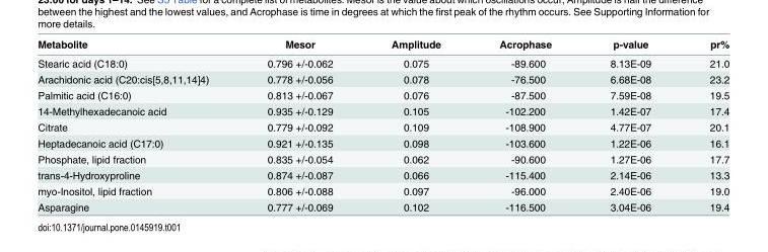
<table><thead><tr><td>Metabolite</td><td>Mesor</td><td>Amplitude</td><td>Acrophase</td><td>p-value</td><td>pr%</td></tr></thead><tbody><tr><td>Stearic acid (C18:0)</td><td>0.796 +/-0.062</td><td>0.075</td><td>-89.600</td><td>8.13E-09</td><td>21.0</td></tr><tr><td>Arachidonic acid (C20:cis[5,8,11,14]4)</td><td>0.778 +/-0.056</td><td>0.078</td><td>-76.500</td><td>6.68E-08</td><td>23.2</td></tr><tr><td>Palmitic acid (C16:0)</td><td>0.813 +/-0.067</td><td>0.076</td><td>-87.500</td><td>7.59E-08</td><td>19.5</td></tr><tr><td>14-Methylhexadecanoic acid</td><td>0.935 +/-0.129</td><td>0.105</td><td>-102.200</td><td>1.42E-07</td><td>17.4</td></tr><tr><td>Citrate</td><td>0.779 +/-0.092</td><td>0.109</td><td>-108.900</td><td>4.77E-07</td><td>20.1</td></tr><tr><td>Heptadecanoic acid (C17:0)</td><td>0.921 +/-0.135</td><td>0.098</td><td>-103.600</td><td>1.22E-06</td><td>16.1</td></tr><tr><td>Phosphate, lipid fraction</td><td>0.835 +/-0.054</td><td>0.062</td><td>-90.600</td><td>1.27E-06</td><td>17.7</td></tr><tr><td>trans-4-Hydroxyproline</td><td>0.874 +/-0.087</td><td>0.066</td><td>-115.400</td><td>2.14E-06</td><td>13.3</td></tr><tr><td>myo-Inositol, lipid fraction</td><td>0.806 +/-0.088</td><td>0.097</td><td>-96.000</td><td>2.40E-06</td><td>19.0</td></tr><tr><td>Asparagine</td><td>0.777 +/-0.069</td><td>0.102</td><td>-116.500</td><td>3.04E-06</td><td>19.4</td></tr></tbody></table>